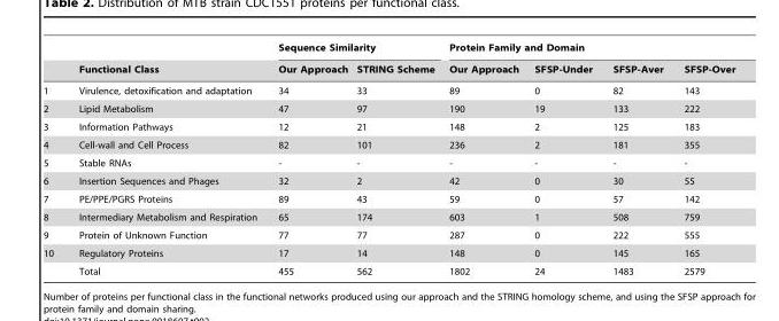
<table><thead><tr><td rowspan="2"></td><td rowspan="2">Functional Class</td><td colspan="2">Sequence Similarity</td><td colspan="4">Protein Family and Domain</td></tr><tr><td>Our Approach</td><td>STRING Scheme</td><td>Our Approach</td><td>SFSP-Under</td><td>SFSP-Aver</td><td>SFSP-Over</td></tr></thead><tbody><tr><td>1</td><td>Virulence, detoxification and adaptation</td><td>34</td><td>33</td><td>89</td><td>0</td><td>82</td><td>143</td></tr><tr><td>2</td><td>Lipid Metabolism</td><td>47</td><td>97</td><td>190</td><td>19</td><td>133</td><td>222</td></tr><tr><td>3</td><td>Information Pathways</td><td>12</td><td>21</td><td>148</td><td>2</td><td>125</td><td>183</td></tr><tr><td>4</td><td>Cell-wall and Cell Process</td><td>82</td><td>101</td><td>236</td><td>2</td><td>181</td><td>355</td></tr><tr><td>5</td><td>Stable RNAs</td><td>-</td><td>-</td><td>-</td><td>-</td><td>-</td><td>-</td></tr><tr><td>6</td><td>Insertion Sequences and Phages</td><td>32</td><td>2</td><td>42</td><td>0</td><td>30</td><td>55</td></tr><tr><td>7</td><td>PE/PPE/PGRS Proteins</td><td>89</td><td>43</td><td>59</td><td>0</td><td>57</td><td>142</td></tr><tr><td>8</td><td>Intermediary Metabolism and Respiration</td><td>65</td><td>174</td><td>603</td><td>1</td><td>508</td><td>759</td></tr><tr><td>9</td><td>Protein of Unknown Function</td><td>77</td><td>77</td><td>287</td><td>0</td><td>222</td><td>555</td></tr><tr><td rowspan="2">10</td><td>Regulatory Proteins</td><td>17</td><td>14</td><td>148</td><td>0</td><td>145</td><td>165</td></tr><tr><td>Total</td><td>455</td><td>562</td><td>1802</td><td>24</td><td>1483</td><td>2579</td></tr></tbody></table>